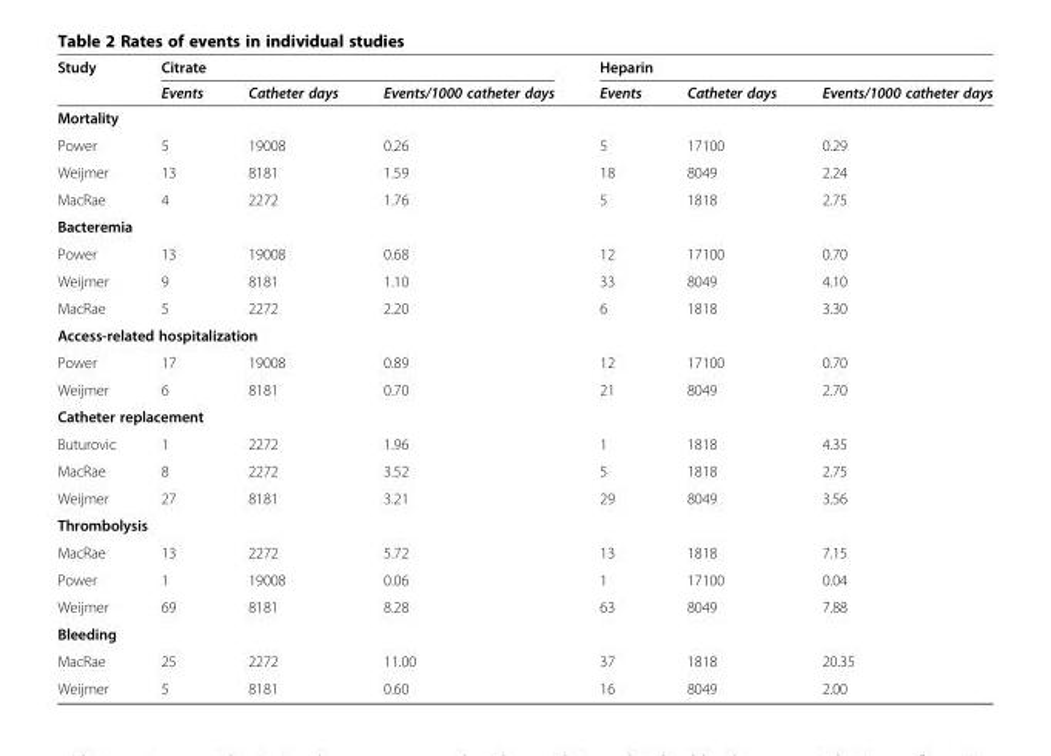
<table><thead><tr><td rowspan="2">Study</td><td colspan="3">Citrate</td><td colspan="3">Heparin</td></tr><tr><td>Events</td><td>Catheter days</td><td>Events/1000 catheter days</td><td>Events</td><td>Catheter days</td><td>Events/1000 catheter days</td></tr></thead><tbody><tr><td colspan="7">Mortality</td></tr><tr><td>Power</td><td>5</td><td>19008</td><td>0.26</td><td>5</td><td>17100</td><td>0.29</td></tr><tr><td>Weijmer</td><td>13</td><td>8181</td><td>1.59</td><td>18</td><td>8049</td><td>2.24</td></tr><tr><td>MacRae</td><td>4</td><td>2272</td><td>1.76</td><td>5</td><td>1818</td><td>2.75</td></tr><tr><td colspan="7">Bacteremia</td></tr><tr><td>Power</td><td>13</td><td>19008</td><td>0.68</td><td>12</td><td>17100</td><td>0.70</td></tr><tr><td>Weijmer</td><td>9</td><td>8181</td><td>1.10</td><td>33</td><td>8049</td><td>4.10</td></tr><tr><td>MacRae</td><td>5</td><td>2272</td><td>2.20</td><td>6</td><td>1818</td><td>3.30</td></tr><tr><td colspan="7">Access-related hospitalization</td></tr><tr><td>Power</td><td>17</td><td>19008</td><td>0.89</td><td>12</td><td>17100</td><td>0.70</td></tr><tr><td>Weijmer</td><td>6</td><td>8181</td><td>0.70</td><td>21</td><td>8049</td><td>2.70</td></tr><tr><td colspan="7">Catheter replacement</td></tr><tr><td>Buturovic</td><td>1</td><td>2272</td><td>1.96</td><td>1</td><td>1818</td><td>4.35</td></tr><tr><td>MacRae</td><td>8</td><td>2272</td><td>3.52</td><td>5</td><td>1818</td><td>2.75</td></tr><tr><td>Weijmer</td><td>27</td><td>8181</td><td>3.21</td><td>29</td><td>8049</td><td>3.56</td></tr><tr><td colspan="7">Thrombolysis</td></tr><tr><td>MacRae</td><td>13</td><td>2272</td><td>5.72</td><td>13</td><td>1818</td><td>7.15</td></tr><tr><td>Power</td><td>1</td><td>19008</td><td>0.06</td><td>1</td><td>17100</td><td>0.04</td></tr><tr><td>Weijmer</td><td>69</td><td>8181</td><td>8.28</td><td>63</td><td>8049</td><td>7.88</td></tr><tr><td colspan="7">Bleeding</td></tr><tr><td>MacRae</td><td>25</td><td>2272</td><td>11.00</td><td>37</td><td>1818</td><td>20.35</td></tr><tr><td>Weijmer</td><td>5</td><td>8181</td><td>0.60</td><td>16</td><td>8049</td><td>2.00</td></tr></tbody></table>